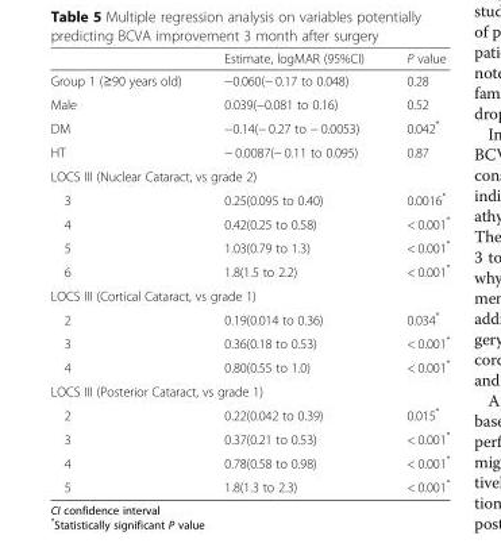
<table><thead><tr><td></td><td>Estimate, logMAR (95%CI)</td><td>P value</td></tr></thead><tbody><tr><td>Group 1 (≥90 years old)</td><td>−0.060(− 0.17 to 0.048)</td><td>0.28</td></tr><tr><td>Male</td><td>0.039(−0.081 to 0.16)</td><td>0.52</td></tr><tr><td>DM</td><td>−0.14(− 0.27 to − 0.0053)</td><td>0.042*</td></tr><tr><td>HT</td><td>− 0.0087(− 0.11 to 0.095)</td><td>0.87</td></tr><tr><td colspan="3">LOCS III (Nuclear Cataract, vs grade 2)</td></tr><tr><td>3</td><td>0.25(0.095 to 0.40)</td><td>0.0016*</td></tr><tr><td>4</td><td>0.42(0.25 to 0.58)</td><td>&lt; 0.001*</td></tr><tr><td>5</td><td>1.03(0.79 to 1.3)</td><td>&lt; 0.001*</td></tr><tr><td>6</td><td>1.8(1.5 to 2.2)</td><td>&lt; 0.001*</td></tr><tr><td colspan="3">LOCS III (Cortical Cataract, vs grade 1)</td></tr><tr><td>2</td><td>0.19(0.014 to 0.36)</td><td>0.034*</td></tr><tr><td>3</td><td>0.36(0.18 to 0.53)</td><td>&lt; 0.001*</td></tr><tr><td>4</td><td>0.80(0.55 to 1.0)</td><td>&lt; 0.001*</td></tr><tr><td colspan="3">LOCS III (Posterior Cataract, vs grade 1)</td></tr><tr><td>2</td><td>0.22(0.042 to 0.39)</td><td>0.015*</td></tr><tr><td>3</td><td>0.37(0.21 to 0.53)</td><td>&lt; 0.001*</td></tr><tr><td>4</td><td>0.78(0.58 to 0.98)</td><td>&lt; 0.001*</td></tr><tr><td>5</td><td>1.8(1.3 to 2.3)</td><td>&lt; 0.001*</td></tr></tbody></table>